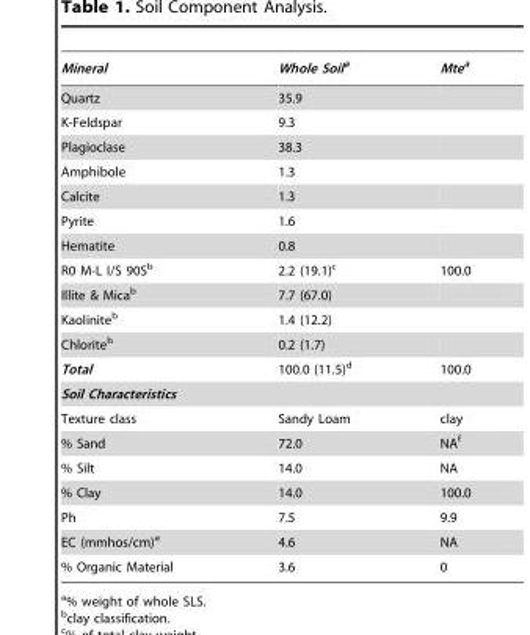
<table><thead><tr><td>Mineral</td><td>Whole Soila</td><td>Mtea</td></tr></thead><tbody><tr><td>Quartz</td><td>35.9</td><td></td></tr><tr><td>K-Feldspar</td><td>9.3</td><td></td></tr><tr><td>Plagioclase</td><td>38.3</td><td></td></tr><tr><td>Amphibole</td><td>1.3</td><td></td></tr><tr><td>Calcite</td><td>1.3</td><td></td></tr><tr><td>Pyrite</td><td>1.6</td><td></td></tr><tr><td>Hematite</td><td>0.8</td><td></td></tr><tr><td>R0 M-L I/S 90S<sup>b</sup></td><td>2.2 (19.1)<sup>c</sup></td><td>100.0</td></tr><tr><td>Illite &amp; Mica<sup>b</sup></td><td>7.7 (67.0)</td><td></td></tr><tr><td>Kaolinite<sup>b</sup></td><td>1.4 (12.2)</td><td></td></tr><tr><td>Chlorite<sup>b</sup></td><td>0.2 (1.7)</td><td></td></tr><tr><td>Total</td><td>100.0 (11.5)<sup>d</sup></td><td>100.0</td></tr><tr><td colspan="3">Soil Characteristics</td></tr><tr><td>Texture class</td><td>Sandy Loam</td><td>clay</td></tr><tr><td>% Sand</td><td>72.0</td><td>NA<sup>f</sup></td></tr><tr><td>% Silt</td><td>14.0</td><td>NA</td></tr><tr><td>% Clay</td><td>14.0</td><td>100.0</td></tr><tr><td>Ph</td><td>7.5</td><td>9.9</td></tr><tr><td>EC (mmhos/cm)<sup>e</sup></td><td>4.6</td><td>NA</td></tr><tr><td>% Organic Material</td><td>3.6</td><td>0</td></tr></tbody></table>